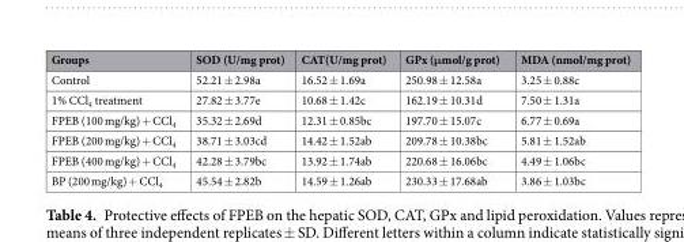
<table><thead><tr><td>Groups</td><td>SOD (U/mg prot)</td><td>CAT(U/mg prot)</td><td>GPx (μmol/g prot)</td><td>MDA (nmol/mg prot)</td></tr></thead><tbody><tr><td>Control</td><td>52.21 ± 2.98a</td><td>16.52 ± 1.69a</td><td>250.98 ± 12.58a</td><td>3.25 ± 0.88c</td></tr><tr><td>1% CCl<sub>4</sub> treatment</td><td>27.82 ± 3.77e</td><td>10.68 ± 1.42c</td><td>162.19 ± 10.31d</td><td>7.50 ± 1.31a</td></tr><tr><td>FPEB (100 mg/kg) + CCl<sub>4</sub></td><td>35.32 ± 2.69d</td><td>12.31 ± 0.85bc</td><td>197.70 ± 15.07c</td><td>6.77 ± 0.69a</td></tr><tr><td>FPEB (200 mg/kg) + CCl<sub>4</sub></td><td>38.71 ± 3.03cd</td><td>14.42 ± 1.52ab</td><td>209.78 ± 10.38bc</td><td>5.81 ± 1.52ab</td></tr><tr><td>FPEB (400 mg/kg) + CCl<sub>4</sub></td><td>42.28 ± 3.79bc</td><td>13.92 ± 1.74ab</td><td>220.68 ± 16.06bc</td><td>4.49 ± 1.06bc</td></tr><tr><td>BP (200 mg/kg) + CCl<sub>4</sub></td><td>45.54 ± 2.82b</td><td>14.59 ± 1.26ab</td><td>230.33 ± 17.68ab</td><td>3.86 ± 1.03bc</td></tr></tbody></table>